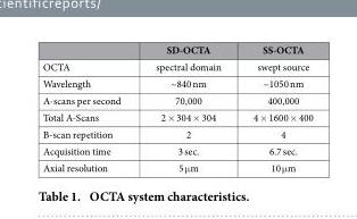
<table><thead><tr><td></td><td>SD-OCTA</td><td>SS-OCTA</td></tr></thead><tbody><tr><td>OCTA</td><td>spectral domain</td><td>swept source</td></tr><tr><td>Wavelength</td><td>~840 nm</td><td>~1050 nm</td></tr><tr><td>A-scans per second</td><td>70,000</td><td>400,000</td></tr><tr><td>Total A-Scans</td><td>2 × 304 × 304</td><td>4 × 1600 × 400</td></tr><tr><td>B-scan repetition</td><td>2</td><td>4</td></tr><tr><td>Acquisition time</td><td>3 sec.</td><td>6.7 sec.</td></tr><tr><td>Axial resolution</td><td>5 μ m</td><td>10 μ m</td></tr></tbody></table>